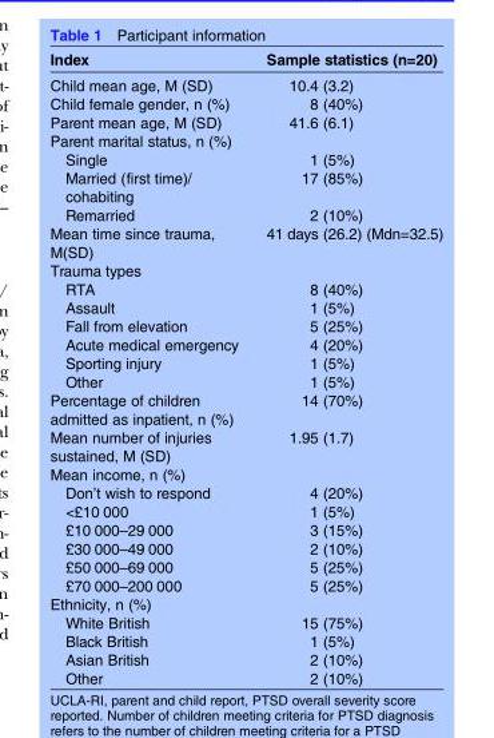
<table><thead><tr><td>Index</td><td>Sample statistics (n=20)</td></tr></thead><tbody><tr><td>Child mean age, M (SD)</td><td>10.4 (3.2)</td></tr><tr><td>Child female gender, n (%)</td><td>8 (40%)</td></tr><tr><td>Parent mean age, M (SD)</td><td>41.6 (6.1)</td></tr><tr><td colspan="2">Parent marital status, n (%)</td></tr><tr><td>Single</td><td>1 (5%)</td></tr><tr><td>Married (first time)/ cohabiting</td><td>17 (85%)</td></tr><tr><td>Remarried</td><td>2 (10%)</td></tr><tr><td>Mean time since trauma, M(SD)</td><td>41 days (26.2) (Mdn=32.5)</td></tr><tr><td colspan="2">Trauma types</td></tr><tr><td>RTA</td><td>8 (40%)</td></tr><tr><td>Assault</td><td>1 (5%)</td></tr><tr><td>Fall from elevation</td><td>5 (25%)</td></tr><tr><td>Acute medical emergency</td><td>4 (20%)</td></tr><tr><td>Sporting injury</td><td>1 (5%)</td></tr><tr><td>Other</td><td>1 (5%)</td></tr><tr><td>Percentage of children admitted as inpatient, n (%)</td><td>14 (70%)</td></tr><tr><td>Mean number of injuries sustained, M (SD)</td><td>1.95 (1.7)</td></tr><tr><td colspan="2">Mean income, n (%)</td></tr><tr><td>Don’t wish to respond</td><td>4 (20%)</td></tr><tr><td>&lt;£10 000</td><td>1 (5%)</td></tr><tr><td>£10 000–29 000</td><td>3 (15%)</td></tr><tr><td>£30 000–49 000</td><td>2 (10%)</td></tr><tr><td>£50 000–69 000</td><td>5 (25%)</td></tr><tr><td>£70 000–200 000</td><td>5 (25%)</td></tr><tr><td colspan="2">Ethnicity, n (%)</td></tr><tr><td>White British</td><td>15 (75%)</td></tr><tr><td>Black British</td><td>1 (5%)</td></tr><tr><td>Asian British</td><td>2 (10%)</td></tr><tr><td>Other</td><td>2 (10%)</td></tr></tbody></table>